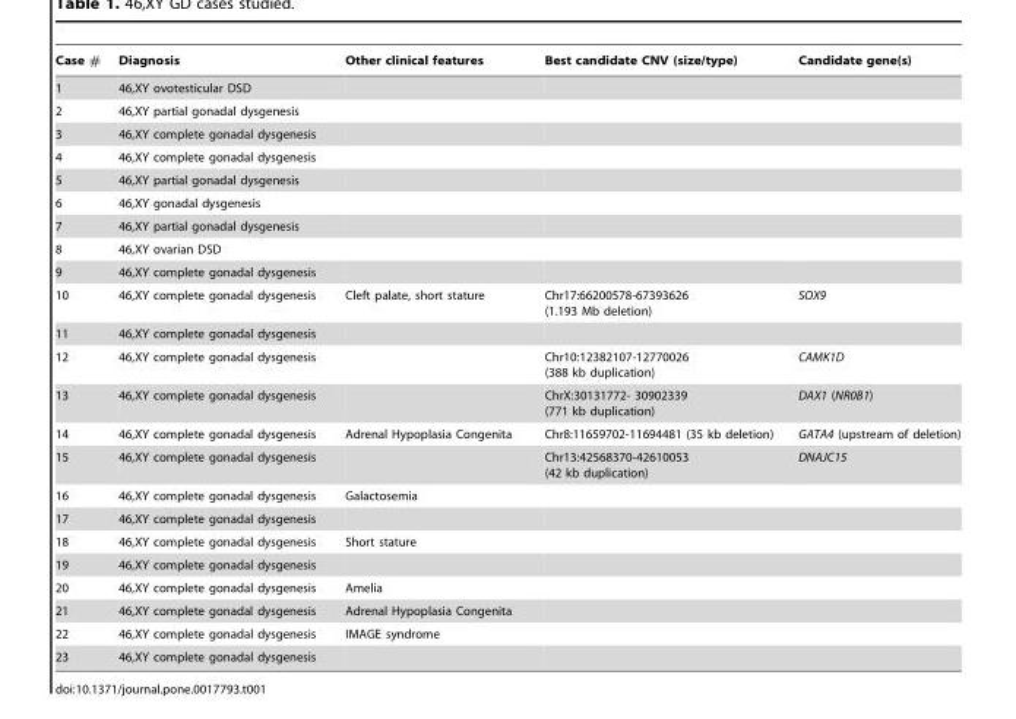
<table><thead><tr><td>Case #</td><td>Diagnosis</td><td>Other clinical features</td><td>Best candidate CNV (size/type)</td><td>Candidate gene(s)</td></tr></thead><tbody><tr><td>1</td><td>46,XY ovotesticular DSD</td><td></td><td></td><td></td></tr><tr><td>2</td><td>46,XY partial gonadal dysgenesis</td><td></td><td></td><td></td></tr><tr><td>3</td><td>46,XY complete gonadal dysgenesis</td><td></td><td></td><td></td></tr><tr><td>4</td><td>46,XY complete gonadal dysgenesis</td><td></td><td></td><td></td></tr><tr><td>5</td><td>46,XY partial gonadal dysgenesis</td><td></td><td></td><td></td></tr><tr><td>6</td><td>46,XY gonadal dysgenesis</td><td></td><td></td><td></td></tr><tr><td>7</td><td>46,XY partial gonadal dysgenesis</td><td></td><td></td><td></td></tr><tr><td>8</td><td>46,XY ovarian DSD</td><td></td><td></td><td></td></tr><tr><td>9</td><td>46,XY complete gonadal dysgenesis</td><td></td><td></td><td></td></tr><tr><td>10</td><td>46,XY complete gonadal dysgenesis</td><td>Cleft palate, short stature</td><td>Chr17:66200578-67393626 (1.193 Mb deletion)</td><td>SOX9</td></tr><tr><td>11</td><td>46,XY complete gonadal dysgenesis</td><td></td><td></td><td></td></tr><tr><td>12</td><td>46,XY complete gonadal dysgenesis</td><td></td><td>Chr10:12382107-12770026 (388 kb duplication)</td><td>CAMK1D</td></tr><tr><td>13</td><td>46,XY complete gonadal dysgenesis</td><td></td><td>ChrX:30131772- 30902339 (771 kb duplication)</td><td>DAX1 (NR0B1)</td></tr><tr><td>14</td><td>46,XY complete gonadal dysgenesis</td><td>Adrenal Hypoplasia Congenita</td><td>Chr8:11659702-11694481 (35 kb deletion)</td><td>GATA4 (upstream of deletion)</td></tr><tr><td>15</td><td>46,XY complete gonadal dysgenesis</td><td></td><td>Chr13:42568370-42610053 (42 kb duplication)</td><td>DNAJC15</td></tr><tr><td>16</td><td>46,XY complete gonadal dysgenesis</td><td>Galactosemia</td><td></td><td></td></tr><tr><td>17</td><td>46,XY complete gonadal dysgenesis</td><td></td><td></td><td></td></tr><tr><td>18</td><td>46,XY complete gonadal dysgenesis</td><td>Short stature</td><td></td><td></td></tr><tr><td>19</td><td>46,XY complete gonadal dysgenesis</td><td></td><td></td><td></td></tr><tr><td>20</td><td>46,XY complete gonadal dysgenesis</td><td>Amelia</td><td></td><td></td></tr><tr><td>21</td><td>46,XY complete gonadal dysgenesis</td><td>Adrenal Hypoplasia Congenita</td><td></td><td></td></tr><tr><td>22</td><td>46,XY complete gonadal dysgenesis</td><td>IMAGE syndrome</td><td></td><td></td></tr><tr><td>23</td><td>46,XY complete gonadal dysgenesis</td><td></td><td></td><td></td></tr></tbody></table>